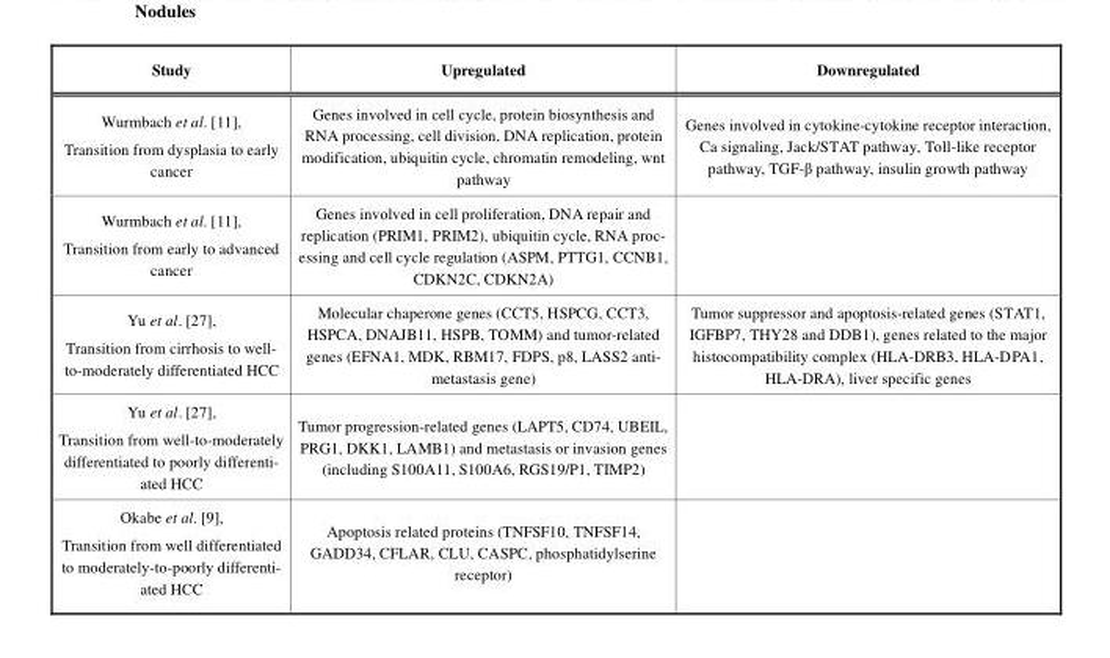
<table><thead><tr><td>Study</td><td>Upregulated</td><td>Downregulated</td></tr></thead><tbody><tr><td>Wurmbach et al. [11], Transition from dysplasia to early cancer</td><td>Genes involved in cell cycle, protein biosynthesis and RNA processing, cell division, DNA replication, protein modification, ubiquitin cycle, chromatin remodeling, wnt pathway</td><td>Genes involved in cytokine-cytokine receptor interaction, Ca signaling, Jack/STAT pathway, Toll-like receptor pathway, TGF-β pathway, insulin growth pathway</td></tr><tr><td>Wurmbach et al. [11], Transition from early to advanced cancer</td><td>Genes involved in cell proliferation, DNA repair and replication (PRIM1, PRIM2), ubiquitin cycle, RNA proc- essing and cell cycle regulation (ASPM, PTTG1, CCNB1, CDKN2C, CDKN2A)</td><td></td></tr><tr><td>Yu et al. [27], Transition from cirrhosis to well- to-moderately differentiated HCC</td><td>Molecular chaperone genes (CCT5, HSPCG, CCT3, HSPCA, DNAJB11, HSPB, TOMM) and tumor-related genes (EFNA1, MDK, RBM17, FDPS, p8, LASS2 anti- metastasis gene)</td><td>Tumor suppressor and apoptosis-related genes (STAT1, IGFBP7, THY28 and DDB1), genes related to the major histocompatibility complex (HLA-DRB3, HLA-DPA1, HLA-DRA), liver specific genes</td></tr><tr><td>Yu et al. [27], Transition from well-to-moderately differentiated to poorly differenti- ated HCC</td><td>Tumor progression-related genes (LAPT5, CD74, UBEIL, PRG1, DKK1, LAMB1) and metastasis or invasion genes (including S100A11, S100A6, RGS19/P1, TIMP2)</td><td></td></tr><tr><td>Okabe et al. [9], Transition from well differentiated to moderately-to-poorly differenti- ated HCC</td><td>Apoptosis related proteins (TNFSF10, TNFSF14, GADD34, CFLAR, CLU, CASPC, phosphatidylserine receptor)</td><td></td></tr></tbody></table>